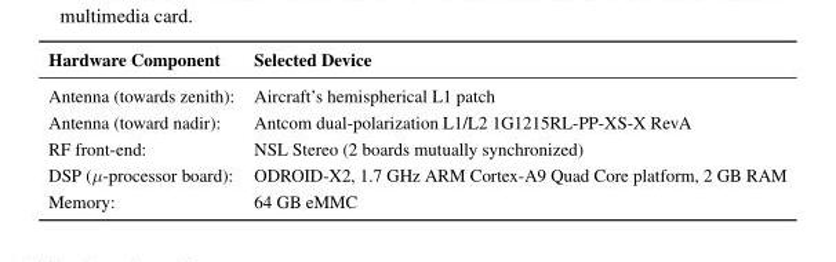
<table><thead><tr><td>Hardware Component</td><td>Selected Device</td></tr></thead><tbody><tr><td>Antenna (towards zenith):</td><td>Aircraft’s hemispherical L1 patch</td></tr><tr><td>Antenna (toward nadir):</td><td>Antcom dual-polarization L1/L2 1G1215RL-PP-XS-X RevA</td></tr><tr><td>RF front-end:</td><td>NSL Stereo (2 boards mutually synchronized)</td></tr><tr><td>DSP (µ-processor board):</td><td>ODROID-X2, 1.7 GHz ARM Cortex-A9 Quad Core platform, 2 GB RAM</td></tr><tr><td>Memory:</td><td>64 GB eMMC</td></tr></tbody></table>